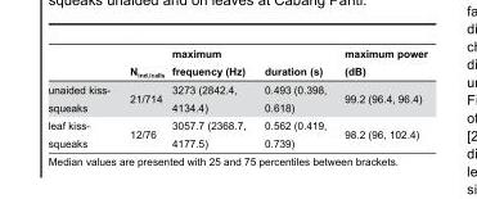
<table><thead><tr><td></td><td>N<sub>ind./calls</sub></td><td>maximum frequency (Hz)</td><td>duration (s)</td><td>maximum power (dB)</td></tr></thead><tbody><tr><td>unaided kiss- squeaks</td><td>21/714</td><td>3273 (2842.4, 4134.4)</td><td>0.493 (0.398, 0.618)</td><td>99.2 (96.4, 96.4)</td></tr><tr><td>leaf kiss- squeaks</td><td>12/76</td><td>3057.7 (2368.7, 4177.5)</td><td>0.562 (0.419, 0.739)</td><td>98.2 (96, 102.4)</td></tr></tbody></table>